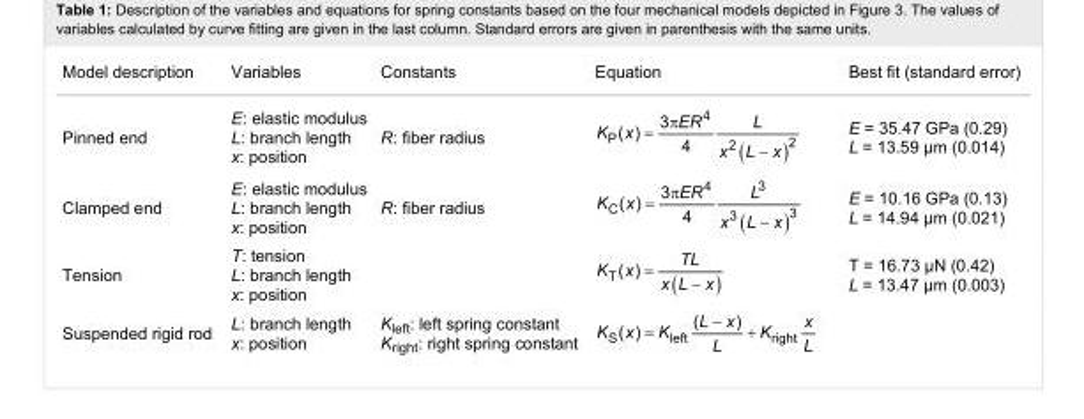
<table><tbody><tr><td>Model description</td><td>Variables</td><td>Constants</td><td>Equation</td><td>Best fit (standard error)</td></tr><tr><td>Pinned end</td><td>E: elastic modulus L: branch length x: position</td><td>R: fiber radius</td><td></td><td>E = 35.47 GPa (0.29) L = 13.59 µm (0.014)</td></tr><tr><td>Clamped end</td><td>E: elastic modulus L: branch length x: position</td><td>R: fiber radius</td><td></td><td>E = 10.16 GPa (0.13) L = 14.94 µm (0.021)</td></tr><tr><td>Tension</td><td>T: tension L: branch length x: position</td><td></td><td></td><td>T = 16.73 µN (0.42) L = 13.47 µm (0.003)</td></tr><tr><td>Suspended rigid rod</td><td>L: branch length x: position</td><td>K<sub>left</sub>: left spring constant K<sub>right</sub>: right spring constant</td><td></td><td></td></tr></tbody></table>